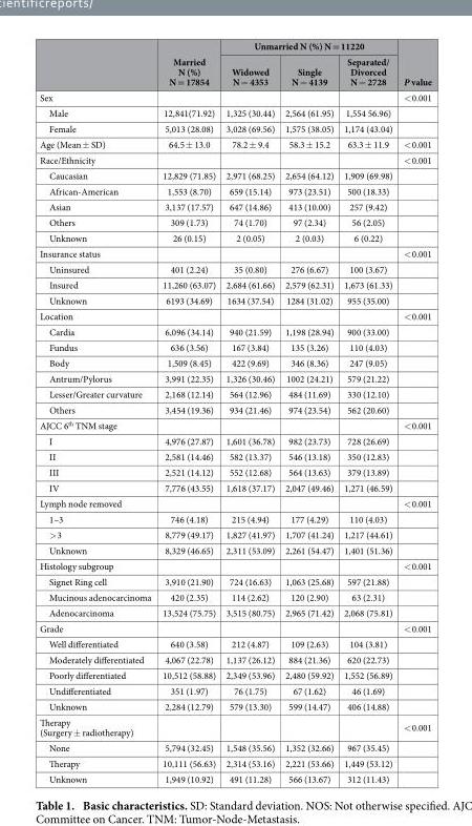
<table><thead><tr><td rowspan="2"></td><td rowspan="2">Married N (%) N = 17854</td><td colspan="3">Unmarried N (%) N = 11220</td><td rowspan="2">P value</td></tr><tr><td>Widowed N = 4353</td><td>Single N = 4139</td><td>Separated/ Divorced N = 2728</td></tr></thead><tbody><tr><td>Sex</td><td></td><td></td><td></td><td></td><td>&lt; 0.001</td></tr><tr><td>Male</td><td>12,841(71.92)</td><td>1,325 (30.44)</td><td>2,564 (61.95)</td><td>1,554 56.96)</td><td></td></tr><tr><td>Female</td><td>5,013 (28.08)</td><td>3,028 (69.56)</td><td>1,575 (38.05)</td><td>1,174 (43.04)</td><td></td></tr><tr><td>Age (Mean ± SD)</td><td>64.5 ± 13.0</td><td>78.2 ± 9.4</td><td>58.3 ± 15.2</td><td>63.3 ± 11.9</td><td>&lt; 0.001</td></tr><tr><td>Race/Ethnicity</td><td></td><td></td><td></td><td></td><td>&lt; 0.001</td></tr><tr><td>Caucasian</td><td>12,829 (71.85)</td><td>2,971 (68.25)</td><td>2,654 (64.12)</td><td>1,909 (69.98)</td><td></td></tr><tr><td>African-American</td><td>1,553 (8.70)</td><td>659 (15.14)</td><td>973 (23.51)</td><td>500 (18.33)</td><td></td></tr><tr><td>Asian</td><td>3,137 (17.57)</td><td>647 (14.86)</td><td>413 (10.00)</td><td>257 (9.42)</td><td></td></tr><tr><td>Others</td><td>309 (1.73)</td><td>74 (1.70)</td><td>97 (2.34)</td><td>56 (2.05)</td><td></td></tr><tr><td>Unknown</td><td>26 (0.15)</td><td>2 (0.05)</td><td>2 (0.03)</td><td>6 (0.22)</td><td></td></tr><tr><td>Insurance status</td><td></td><td></td><td></td><td></td><td>&lt; 0.001</td></tr><tr><td>Uninsured</td><td>401 (2.24)</td><td>35 (0.80)</td><td>276 (6.67)</td><td>100 (3.67)</td><td></td></tr><tr><td>Insured</td><td>11,260 (63.07)</td><td>2,684 (61.66)</td><td>2,579 (62.31)</td><td>1,673 (61.33)</td><td></td></tr><tr><td>Unknown</td><td>6193 (34.69)</td><td>1634 (37.54)</td><td>1284 (31.02)</td><td>955 (35.00)</td><td></td></tr><tr><td>Location</td><td></td><td></td><td></td><td></td><td>&lt; 0.001</td></tr><tr><td>Cardia</td><td>6,096 (34.14)</td><td>940 (21.59)</td><td>1,198 (28.94)</td><td>900 (33.00)</td><td></td></tr><tr><td>Fundus</td><td>636 (3.56)</td><td>167 (3.84)</td><td>135 (3.26)</td><td>110 (4.03)</td><td></td></tr><tr><td>Body</td><td>1,509 (8.45)</td><td>422 (9.69)</td><td>346 (8.36)</td><td>247 (9.05)</td><td></td></tr><tr><td>Antrum/Pylorus</td><td>3,991 (22.35)</td><td>1,326 (30.46)</td><td>1002 (24.21)</td><td>579 (21.22)</td><td></td></tr><tr><td>Lesser/Greater curvature</td><td>2,168 (12.14)</td><td>564 (12.96)</td><td>484 (11.69)</td><td>330 (12.10)</td><td></td></tr><tr><td>Others</td><td>3,454 (19.36)</td><td>934 (21.46)</td><td>974 (23.54)</td><td>562 (20.60)</td><td></td></tr><tr><td>AJCC 6<sup>th</sup> TNM stage</td><td></td><td></td><td></td><td></td><td>&lt; 0.001</td></tr><tr><td>I</td><td>4,976 (27.87)</td><td>1,601 (36.78)</td><td>982 (23.73)</td><td>728 (26.69)</td><td></td></tr><tr><td>II</td><td>2,581 (14.46)</td><td>582 (13.37)</td><td>546 (13.18)</td><td>350 (12.83)</td><td></td></tr><tr><td>III</td><td>2,521 (14.12)</td><td>552 (12.68)</td><td>564 (13.63)</td><td>379 (13.89)</td><td></td></tr><tr><td>IV</td><td>7,776 (43.55)</td><td>1,618 (37.17)</td><td>2,047 (49.46)</td><td>1,271 (46.59)</td><td></td></tr><tr><td>Lymph node removed</td><td></td><td></td><td></td><td></td><td>&lt; 0.001</td></tr><tr><td>1–3</td><td>746 (4.18)</td><td>215 (4.94)</td><td>177 (4.29)</td><td>110 (4.03)</td><td></td></tr><tr><td>&gt; 3</td><td>8,779 (49.17)</td><td>1,827 (41.97)</td><td>1,707 (41.24)</td><td>1,217 (44.61)</td><td></td></tr><tr><td>Unknown</td><td>8,329 (46.65)</td><td>2,311 (53.09)</td><td>2,261 (54.47)</td><td>1,401 (51.36)</td><td></td></tr><tr><td>Histology subgroup</td><td></td><td></td><td></td><td></td><td>&lt; 0.001</td></tr><tr><td>Signet Ring cell</td><td>3,910 (21.90)</td><td>724 (16.63)</td><td>1,063 (25.68)</td><td>597 (21.88)</td><td></td></tr><tr><td>Mucinous adenocarcinoma</td><td>420 (2.35)</td><td>114 (2.62)</td><td>120 (2.90)</td><td>63 (2.31)</td><td></td></tr><tr><td>Adenocarcinoma</td><td>13,524 (75.75)</td><td>3,515 (80.75)</td><td>2,965 (71.42)</td><td>2,068 (75.81)</td><td></td></tr><tr><td>Grade</td><td></td><td></td><td></td><td></td><td>&lt; 0.001</td></tr><tr><td>Well differentiated</td><td>640 (3.58)</td><td>212 (4.87)</td><td>109 (2.63)</td><td>104 (3.81)</td><td></td></tr><tr><td>Moderately differentiated</td><td>4,067 (22.78)</td><td>1,137 (26.12)</td><td>884 (21.36)</td><td>620 (22.73)</td><td></td></tr><tr><td>Poorly differentiated</td><td>10,512 (58.88)</td><td>2,349 (53.96)</td><td>2,480 (59.92)</td><td>1,552 (56.89)</td><td></td></tr><tr><td>Undifferentiated</td><td>351 (1.97)</td><td>76 (1.75)</td><td>67 (1.62)</td><td>46 (1.69)</td><td></td></tr><tr><td>Unknown</td><td>2,284 (12.79)</td><td>579 (13.30)</td><td>599 (14.47)</td><td>406 (14.88)</td><td></td></tr><tr><td>Therapy (Surgery ± radiotherapy)</td><td></td><td></td><td></td><td></td><td>&lt; 0.001</td></tr><tr><td>None</td><td>5,794 (32.45)</td><td>1,548 (35.56)</td><td>1,352 (32.66)</td><td>967 (35.45)</td><td></td></tr><tr><td>Therapy</td><td>10,111 (56.63)</td><td>2,314 (53.16)</td><td>2,221 (53.66)</td><td>1,449 (53.12)</td><td></td></tr><tr><td>Unknown</td><td>1,949 (10.92)</td><td>491 (11.28)</td><td>566 (13.67)</td><td>312 (11.43)</td><td></td></tr></tbody></table>